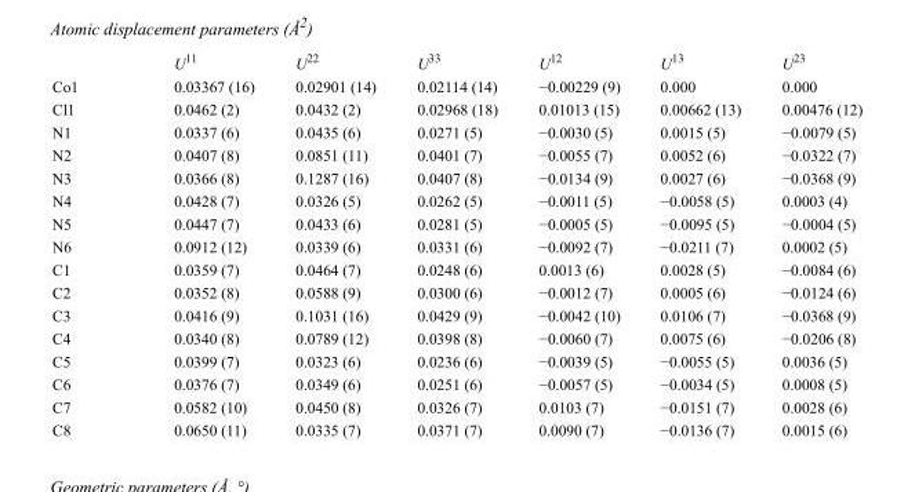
<table><thead><tr><td></td><td>U<sup>11</sup></td><td>U<sup>22</sup></td><td>U<sup>33</sup></td><td>U<sup>12</sup></td><td>U<sup>13</sup></td><td>U<sup>23</sup></td></tr></thead><tbody><tr><td>Co1</td><td>0.03367 (16)</td><td>0.02901 (14)</td><td>0.02114 (14)</td><td>−0.00229 (9)</td><td>0.000</td><td>0.000</td></tr><tr><td>Cl1</td><td>0.0462 (2)</td><td>0.0432 (2)</td><td>0.02968 (18)</td><td>0.01013 (15)</td><td>0.00662 (13)</td><td>0.00476 (12)</td></tr><tr><td>N1</td><td>0.0337 (6)</td><td>0.0435 (6)</td><td>0.0271 (5)</td><td>−0.0030 (5)</td><td>0.0015 (5)</td><td>−0.0079 (5)</td></tr><tr><td>N2</td><td>0.0407 (8)</td><td>0.0851 (11)</td><td>0.0401 (7)</td><td>−0.0055 (7)</td><td>0.0052 (6)</td><td>−0.0322 (7)</td></tr><tr><td>N3</td><td>0.0366 (8)</td><td>0.1287 (16)</td><td>0.0407 (8)</td><td>−0.0134 (9)</td><td>0.0027 (6)</td><td>−0.0368 (9)</td></tr><tr><td>N4</td><td>0.0428 (7)</td><td>0.0326 (5)</td><td>0.0262 (5)</td><td>−0.0011 (5)</td><td>−0.0058 (5)</td><td>0.0003 (4)</td></tr><tr><td>N5</td><td>0.0447 (7)</td><td>0.0433 (6)</td><td>0.0281 (5)</td><td>−0.0005 (5)</td><td>−0.0095 (5)</td><td>−0.0004 (5)</td></tr><tr><td>N6</td><td>0.0912 (12)</td><td>0.0339 (6)</td><td>0.0331 (6)</td><td>−0.0092 (7)</td><td>−0.0211 (7)</td><td>0.0002 (5)</td></tr><tr><td>C1</td><td>0.0359 (7)</td><td>0.0464 (7)</td><td>0.0248 (6)</td><td>0.0013 (6)</td><td>0.0028 (5)</td><td>−0.0084 (6)</td></tr><tr><td>C2</td><td>0.0352 (8)</td><td>0.0588 (9)</td><td>0.0300 (6)</td><td>−0.0012 (7)</td><td>0.0005 (6)</td><td>−0.0124 (6)</td></tr><tr><td>C3</td><td>0.0416 (9)</td><td>0.1031 (16)</td><td>0.0429 (9)</td><td>−0.0042 (10)</td><td>0.0106 (7)</td><td>−0.0368 (9)</td></tr><tr><td>C4</td><td>0.0340 (8)</td><td>0.0789 (12)</td><td>0.0398 (8)</td><td>−0.0060 (7)</td><td>0.0075 (6)</td><td>−0.0206 (8)</td></tr><tr><td>C5</td><td>0.0399 (7)</td><td>0.0323 (6)</td><td>0.0236 (6)</td><td>−0.0039 (5)</td><td>−0.0055 (5)</td><td>0.0036 (5)</td></tr><tr><td>C6</td><td>0.0376 (7)</td><td>0.0349 (6)</td><td>0.0251 (6)</td><td>−0.0057 (5)</td><td>−0.0034 (5)</td><td>0.0008 (5)</td></tr><tr><td>C7</td><td>0.0582 (10)</td><td>0.0450 (8)</td><td>0.0326 (7)</td><td>0.0103 (7)</td><td>−0.0151 (7)</td><td>0.0028 (6)</td></tr><tr><td>C8</td><td>0.0650 (11)</td><td>0.0335 (7)</td><td>0.0371 (7)</td><td>0.0090 (7)</td><td>−0.0136 (7)</td><td>0.0015 (6)</td></tr></tbody></table>